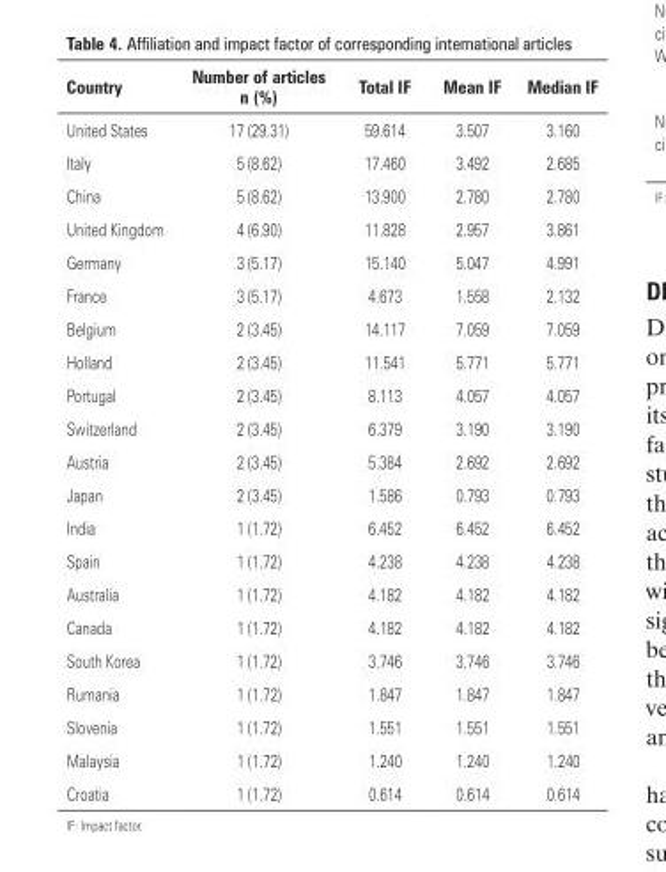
<table><thead><tr><td>Country</td><td>Number of articles n (%)</td><td>Total IF</td><td>Mean IF</td><td>Median IF</td></tr></thead><tbody><tr><td>United States</td><td>17 (29.31)</td><td>59.614</td><td>3.507</td><td>3.160</td></tr><tr><td>Italy</td><td>5 (8.62)</td><td>17.460</td><td>3.492</td><td>2.685</td></tr><tr><td>China</td><td>5 (8.62)</td><td>13.900</td><td>2.780</td><td>2.780</td></tr><tr><td>United Kingdom</td><td>4 (6.90)</td><td>11.828</td><td>2.957</td><td>3.861</td></tr><tr><td>Germany</td><td>3 (5.17)</td><td>15.140</td><td>5.047</td><td>4.991</td></tr><tr><td>France</td><td>3 (5.17)</td><td>4.673</td><td>1.558</td><td>2.132</td></tr><tr><td>Belgium</td><td>2 (3.45)</td><td>14.117</td><td>7.059</td><td>7.059</td></tr><tr><td>Holland</td><td>2 (3.45)</td><td>11.541</td><td>5.771</td><td>5.771</td></tr><tr><td>Portugal</td><td>2 (3.45)</td><td>8.113</td><td>4.057</td><td>4.057</td></tr><tr><td>Switzerland</td><td>2 (3.45)</td><td>6.379</td><td>3.190</td><td>3.190</td></tr><tr><td>Austria</td><td>2 (3.45)</td><td>5.384</td><td>2.692</td><td>2.692</td></tr><tr><td>Japan</td><td>2 (3.45)</td><td>1.586</td><td>0.793</td><td>0.793</td></tr><tr><td>India</td><td>1 (1.72)</td><td>6.452</td><td>6.452</td><td>6.452</td></tr><tr><td>Spain</td><td>1 (1.72)</td><td>4.238</td><td>4.238</td><td>4.238</td></tr><tr><td>Australia</td><td>1 (1.72)</td><td>4.182</td><td>4.182</td><td>4.182</td></tr><tr><td>Canada</td><td>1 (1.72)</td><td>4.182</td><td>4.182</td><td>4.182</td></tr><tr><td>South Korea</td><td>1 (1.72)</td><td>3.746</td><td>3.746</td><td>3.746</td></tr><tr><td>Rumania</td><td>1 (1.72)</td><td>1.847</td><td>1.847</td><td>1.847</td></tr><tr><td>Slovenia</td><td>1 (1.72)</td><td>1.551</td><td>1.551</td><td>1.551</td></tr><tr><td>Malaysia</td><td>1 (1.72)</td><td>1.240</td><td>1.240</td><td>1.240</td></tr><tr><td>Croatia</td><td>1 (1.72)</td><td>0.614</td><td>0.614</td><td>0.614</td></tr></tbody></table>